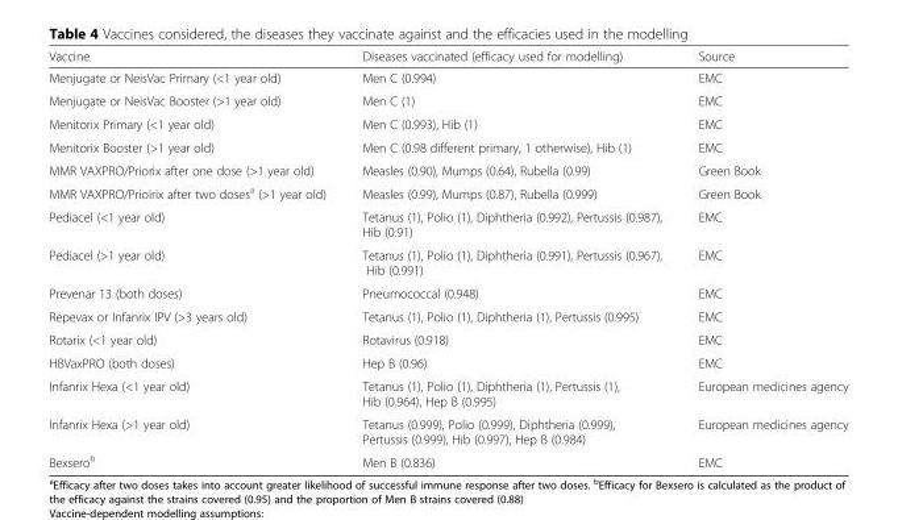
<table><thead><tr><td>Vaccine</td><td>Diseases vaccinated (efficacy used for modelling)</td><td>Source</td></tr></thead><tbody><tr><td>Menjugate or NeisVac Primary (&lt;1 year old)</td><td>Men C (0.994)</td><td>EMC</td></tr><tr><td>Menjugate or NeisVac Booster (&gt;1 year old)</td><td>Men C (1)</td><td>EMC</td></tr><tr><td>Menitorix Primary (&lt;1 year old)</td><td>Men C (0.993), Hib (1)</td><td>EMC</td></tr><tr><td>Menitorix Booster (&gt;1 year old)</td><td>Men C (0.98 different primary, 1 otherwise), Hib (1)</td><td>EMC</td></tr><tr><td>MMR VAXPRO/Priorix after one dose (&gt;1 year old)</td><td>Measles (0.90), Mumps (0.64), Rubella (0.99)</td><td>Green Book</td></tr><tr><td>MMR VAXPRO/Prioirix after two doses<sup>a</sup> (&gt;1 year old)</td><td>Measles (0.99), Mumps (0.87), Rubella (0.999)</td><td>Green Book</td></tr><tr><td>Pediacel (&lt;1 year old)</td><td>Tetanus (1), Polio (1), Diphtheria (0.992), Pertussis (0.987), Hib (0.91)</td><td>EMC</td></tr><tr><td>Pediacel (&gt;1 year old)</td><td>Tetanus (1), Polio (1), Diphtheria (0.991), Pertussis (0.967), Hib (0.991)</td><td>EMC</td></tr><tr><td>Prevenar 13 (both doses)</td><td>Pneumococcal (0.948)</td><td>EMC</td></tr><tr><td>Repevax or Infanrix IPV (&gt;3 years old)</td><td>Tetanus (1), Polio (1), Diphtheria (1), Pertussis (0.995)</td><td>EMC</td></tr><tr><td>Rotarix (&lt;1 year old)</td><td>Rotavirus (0.918)</td><td>EMC</td></tr><tr><td>HBVaxPRO (both doses)</td><td>Hep B (0.96)</td><td>EMC</td></tr><tr><td>Infanrix Hexa (&lt;1 year old)</td><td>Tetanus (1), Polio (1), Diphtheria (1), Pertussis (1), Hib (0.964), Hep B (0.995)</td><td>European medicines agency</td></tr><tr><td>Infanrix Hexa (&gt;1 year old)</td><td>Tetanus (0.999), Polio (0.999), Diphtheria (0.999), Pertussis (0.999), Hib (0.997), Hep B (0.984)</td><td>European medicines agency</td></tr><tr><td>Bexsero<sup>b</sup></td><td>Men B (0.836)</td><td>EMC</td></tr></tbody></table>